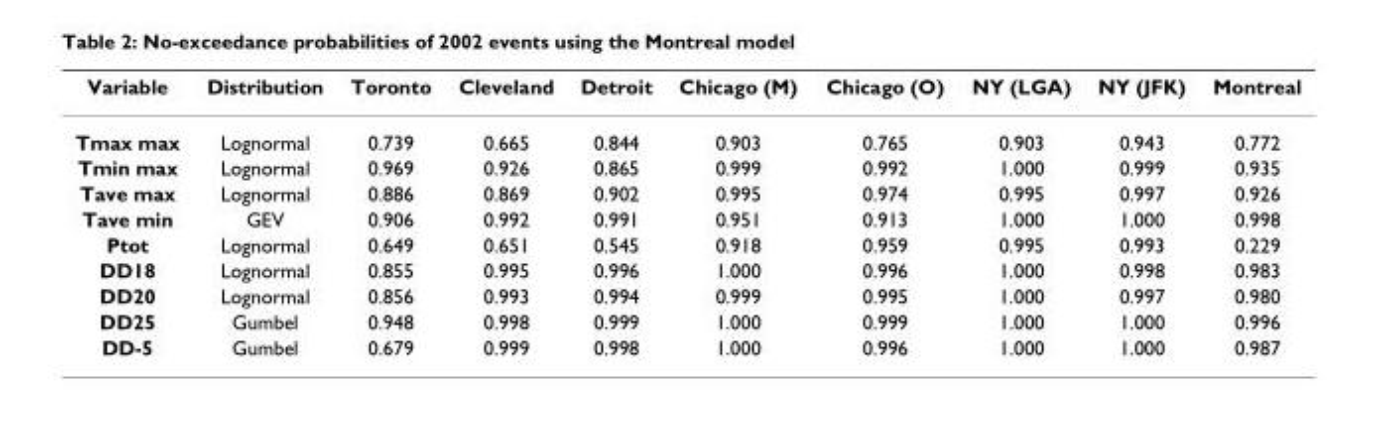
<table><thead><tr><td>Variable</td><td>Distribution</td><td>Toronto</td><td>Cleveland</td><td>Detroit</td><td>Chicago (M)</td><td>Chicago (O)</td><td>NY (LGA)</td><td>NY (JFK)</td><td>Montreal</td></tr></thead><tbody><tr><td>Tmax max</td><td>Lognormal</td><td>0.739</td><td>0.665</td><td>0.844</td><td>0.903</td><td>0.765</td><td>0.903</td><td>0.943</td><td>0.772</td></tr><tr><td>Tmin max</td><td>Lognormal</td><td>0.969</td><td>0.926</td><td>0.865</td><td>0.999</td><td>0.992</td><td>1.000</td><td>0.999</td><td>0.935</td></tr><tr><td>Tave max</td><td>Lognormal</td><td>0.886</td><td>0.869</td><td>0.902</td><td>0.995</td><td>0.974</td><td>0.995</td><td>0.997</td><td>0.926</td></tr><tr><td>Tave min</td><td>GEV</td><td>0.906</td><td>0.992</td><td>0.991</td><td>0.951</td><td>0.913</td><td>1.000</td><td>1.000</td><td>0.998</td></tr><tr><td>Ptot</td><td>Lognormal</td><td>0.649</td><td>0.651</td><td>0.545</td><td>0.918</td><td>0.959</td><td>0.995</td><td>0.993</td><td>0.229</td></tr><tr><td>DD18</td><td>Lognormal</td><td>0.855</td><td>0.995</td><td>0.996</td><td>1.000</td><td>0.996</td><td>1.000</td><td>0.998</td><td>0.983</td></tr><tr><td>DD20</td><td>Lognormal</td><td>0.856</td><td>0.993</td><td>0.994</td><td>0.999</td><td>0.995</td><td>1.000</td><td>0.997</td><td>0.980</td></tr><tr><td>DD25</td><td>Gumbel</td><td>0.948</td><td>0.998</td><td>0.999</td><td>1.000</td><td>0.999</td><td>1.000</td><td>1.000</td><td>0.996</td></tr><tr><td>DD-5</td><td>Gumbel</td><td>0.679</td><td>0.999</td><td>0.998</td><td>1.000</td><td>0.996</td><td>1.000</td><td>1.000</td><td>0.987</td></tr></tbody></table>